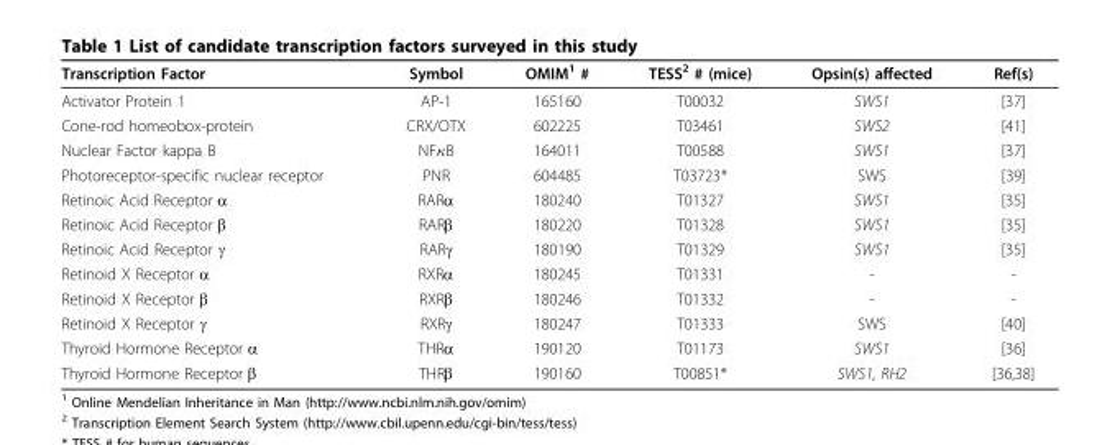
<table><thead><tr><td>Transcription Factor</td><td>Symbol</td><td>OMIM<sup>1</sup> #</td><td>TESS<sup>2</sup> # (mice)</td><td>Opsin(s) affected</td><td>Ref(s)</td></tr></thead><tbody><tr><td>Activator Protein 1</td><td>AP-1</td><td>165160</td><td>T00032</td><td>SWS1</td><td>[37]</td></tr><tr><td>Cone-rod homeobox-protein</td><td>CRX/OTX</td><td>602225</td><td>T03461</td><td>SWS2</td><td>[41]</td></tr><tr><td>Nuclear Factor kappa B</td><td>NFκB</td><td>164011</td><td>T00588</td><td>SWS1</td><td>[37]</td></tr><tr><td>Photoreceptor-specific nuclear receptor</td><td>PNR</td><td>604485</td><td>T03723*</td><td>SWS</td><td>[39]</td></tr><tr><td>Retinoic Acid Receptor α</td><td>RARα</td><td>180240</td><td>T01327</td><td>SWS1</td><td>[35]</td></tr><tr><td>Retinoic Acid Receptor β</td><td>RARβ</td><td>180220</td><td>T01328</td><td>SWS1</td><td>[35]</td></tr><tr><td>Retinoic Acid Receptor γ</td><td>RARγ</td><td>180190</td><td>T01329</td><td>SWS1</td><td>[35]</td></tr><tr><td>Retinoid X Receptor α</td><td>RXRα</td><td>180245</td><td>T01331</td><td>-</td><td>-</td></tr><tr><td>Retinoid X Receptor β</td><td>RXRβ</td><td>180246</td><td>T01332</td><td>-</td><td>-</td></tr><tr><td>Retinoid X Receptor γ</td><td>RXRγ</td><td>180247</td><td>T01333</td><td>SWS</td><td>[40]</td></tr><tr><td>Thyroid Hormone Receptor α</td><td>THRα</td><td>190120</td><td>T01173</td><td>SWS1</td><td>[36]</td></tr><tr><td>Thyroid Hormone Receptor β</td><td>THRβ</td><td>190160</td><td>T00851*</td><td>SWS1, RH2</td><td>[36,38]</td></tr></tbody></table>